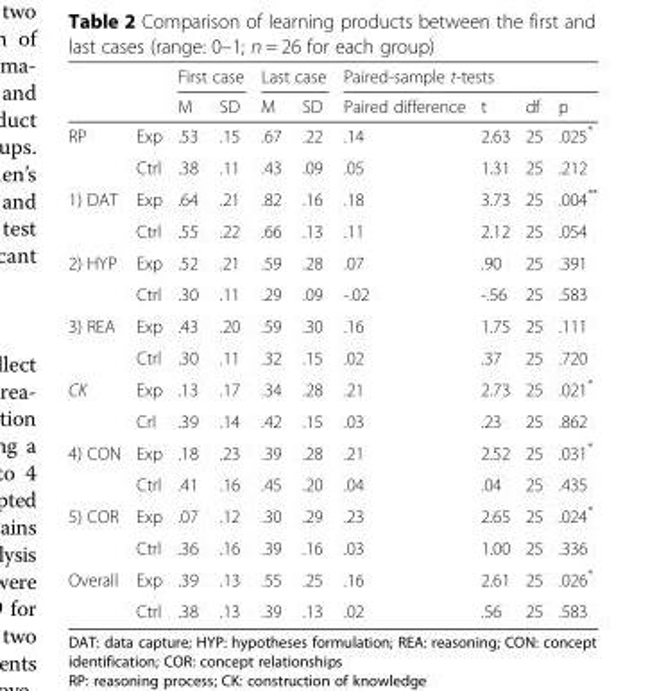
<table><thead><tr><td rowspan="2"></td><td rowspan="2"></td><td colspan="2">First case</td><td colspan="2">Last case</td><td colspan="4">Paired-sample t-tests</td></tr><tr><td>M</td><td>SD</td><td>M</td><td>SD</td><td>Paired difference</td><td>t</td><td>df</td><td>p</td></tr></thead><tbody><tr><td rowspan="2">RP</td><td>Exp</td><td>.53</td><td>.15</td><td>.67</td><td>.22</td><td>.14</td><td>2.63</td><td>25</td><td>.025*</td></tr><tr><td>Ctrl</td><td>.38</td><td>.11</td><td>.43</td><td>.09</td><td>.05</td><td>1.31</td><td>25</td><td>.212</td></tr><tr><td rowspan="2">1) DAT</td><td>Exp</td><td>.64</td><td>.21</td><td>.82</td><td>.16</td><td>.18</td><td>3.73</td><td>25</td><td>.004**</td></tr><tr><td>Ctrl</td><td>.55</td><td>.22</td><td>.66</td><td>.13</td><td>.11</td><td>2.12</td><td>25</td><td>.054</td></tr><tr><td rowspan="2">2) HYP</td><td>Exp</td><td>.52</td><td>.21</td><td>.59</td><td>.28</td><td>.07</td><td>.90</td><td>25</td><td>.391</td></tr><tr><td>Ctrl</td><td>.30</td><td>.11</td><td>.29</td><td>.09</td><td>-.02</td><td>-.56</td><td>25</td><td>.583</td></tr><tr><td rowspan="2">3) REA</td><td>Exp</td><td>.43</td><td>.20</td><td>.59</td><td>.30</td><td>.16</td><td>1.75</td><td>25</td><td>.111</td></tr><tr><td>Ctrl</td><td>.30</td><td>.11</td><td>.32</td><td>.15</td><td>.02</td><td>.37</td><td>25</td><td>.720</td></tr><tr><td rowspan="2">CK</td><td>Exp</td><td>.13</td><td>.17</td><td>.34</td><td>.28</td><td>.21</td><td>2.73</td><td>25</td><td>.021*</td></tr><tr><td>Crl</td><td>.39</td><td>.14</td><td>.42</td><td>.15</td><td>.03</td><td>.23</td><td>25</td><td>.862</td></tr><tr><td rowspan="2">4) CON</td><td>Exp</td><td>.18</td><td>.23</td><td>.39</td><td>.28</td><td>.21</td><td>2.52</td><td>25</td><td>.031*</td></tr><tr><td>Ctrl</td><td>.41</td><td>.16</td><td>.45</td><td>.20</td><td>.04</td><td>.04</td><td>25</td><td>.435</td></tr><tr><td rowspan="2">5) COR</td><td>Exp</td><td>.07</td><td>.12</td><td>.30</td><td>.29</td><td>.23</td><td>2.65</td><td>25</td><td>.024*</td></tr><tr><td>Ctrl</td><td>.36</td><td>.16</td><td>.39</td><td>.16</td><td>.03</td><td>1.00</td><td>25</td><td>.336</td></tr><tr><td rowspan="2">Overall</td><td>Exp</td><td>.39</td><td>.13</td><td>.55</td><td>.25</td><td>.16</td><td>2.61</td><td>25</td><td>.026*</td></tr><tr><td>Ctrl</td><td>.38</td><td>.13</td><td>.39</td><td>.13</td><td>.02</td><td>.56</td><td>25</td><td>.583</td></tr></tbody></table>